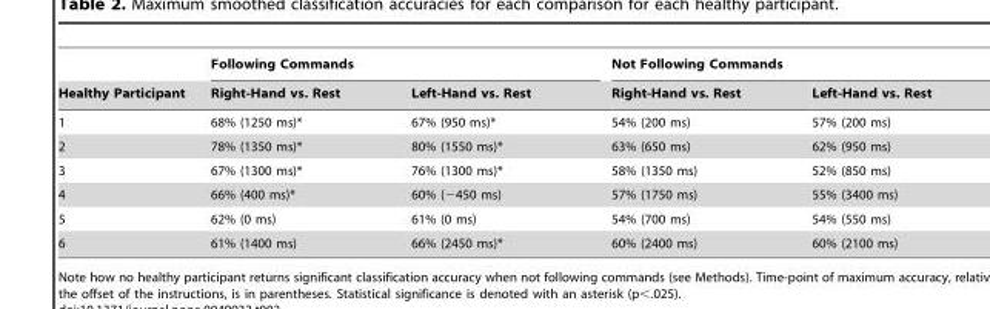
<table><thead><tr><td rowspan="2">Healthy Participant</td><td colspan="2">Following Commands</td><td colspan="2">Not Following Commands</td></tr><tr><td>Right-Hand vs. Rest</td><td>Left-Hand vs. Rest</td><td>Right-Hand vs. Rest</td><td>Left-Hand vs. Rest</td></tr></thead><tbody><tr><td>1</td><td>68% (1250 ms)*</td><td>67% (950 ms)*</td><td>54% (200 ms)</td><td>57% (200 ms)</td></tr><tr><td>2</td><td>78% (1350 ms)*</td><td>80% (1550 ms)*</td><td>63% (650 ms)</td><td>62% (950 ms)</td></tr><tr><td>3</td><td>67% (1300 ms)*</td><td>76% (1300 ms)*</td><td>58% (1350 ms)</td><td>52% (850 ms)</td></tr><tr><td>4</td><td>66% (400 ms)*</td><td>60% (−450 ms)</td><td>57% (1750 ms)</td><td>55% (3400 ms)</td></tr><tr><td>5</td><td>62% (0 ms)</td><td>61% (0 ms)</td><td>54% (700 ms)</td><td>54% (550 ms)</td></tr><tr><td>6</td><td>61% (1400 ms)</td><td>66% (2450 ms)*</td><td>60% (2400 ms)</td><td>60% (2100 ms)</td></tr></tbody></table>